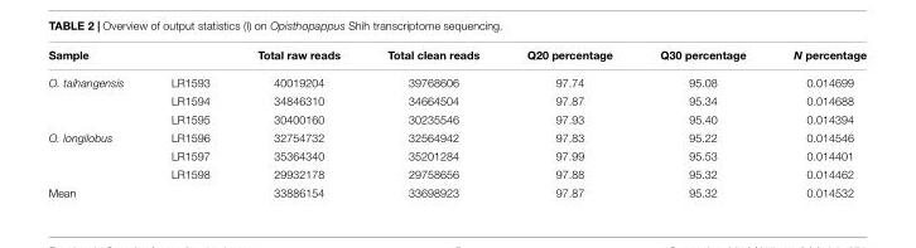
<table><thead><tr><td colspan="2">Sample</td><td rowspan="2">Total raw reads 40019204</td><td rowspan="2">Total clean reads 39768606</td><td rowspan="2">Q20 percentage 97.74</td><td rowspan="2">Q30 percentage 95.08</td><td rowspan="2">N percentage 0.014699</td></tr><tr><td>O. taihangensis</td><td>LR1593</td></tr></thead><tbody><tr><td></td><td>LR1594</td><td>34846310</td><td>34664504</td><td>97.87</td><td>95.34</td><td>0.014688</td></tr><tr><td></td><td>LR1595</td><td>30400160</td><td>30235546</td><td>97.93</td><td>95.40</td><td>0.014394</td></tr><tr><td rowspan="3">O. longilobus</td><td>LR1596</td><td>32754732</td><td>32564942</td><td>97.83</td><td>95.22</td><td>0.014546</td></tr><tr><td>LR1597</td><td>35364340</td><td>35201284</td><td>97.99</td><td>95.53</td><td>0.014401</td></tr><tr><td>LR1598</td><td>29932178</td><td>29758656</td><td>97.88</td><td>95.32</td><td>0.014462</td></tr><tr><td>Mean</td><td></td><td>33886154</td><td>33698923</td><td>97.87</td><td>95.32</td><td>0.014532</td></tr></tbody></table>